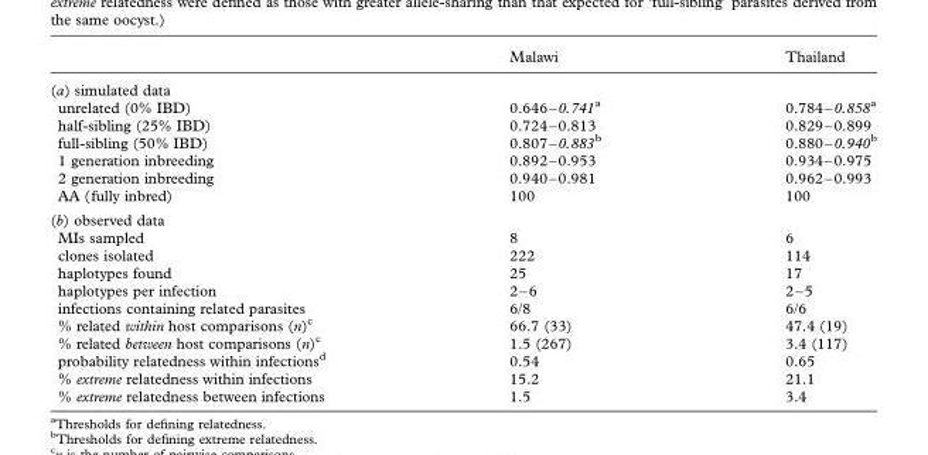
<table><thead><tr><td></td><td>Malawi</td><td>Thailand</td></tr></thead><tbody><tr><td colspan="3">(a) simulated data</td></tr><tr><td>unrelated (0% IBD)</td><td>0.646–0.741<sup>a</sup></td><td>0.784–0.858<sup>a</sup></td></tr><tr><td>half-sibling (25% IBD)</td><td>0.724–0.813</td><td>0.829–0.899</td></tr><tr><td>full-sibling (50% IBD)</td><td>0.807–0.883<sup>b</sup></td><td>0.880–0.940<sup>b</sup></td></tr><tr><td>1 generation inbreeding</td><td>0.892–0.953</td><td>0.934–0.975</td></tr><tr><td>2 generation inbreeding</td><td>0.940–0.981</td><td>0.962–0.993</td></tr><tr><td>AA (fully inbred)</td><td>100</td><td>100</td></tr><tr><td colspan="3">(b) observed data</td></tr><tr><td>MIs sampled</td><td>8</td><td>6</td></tr><tr><td>clones isolated</td><td>222</td><td>114</td></tr><tr><td>haplotypes found</td><td>25</td><td>17</td></tr><tr><td>haplotypes per infection</td><td>2–6</td><td>2–5</td></tr><tr><td>infections containing related parasites</td><td>6/8</td><td>6/6</td></tr><tr><td>% related within host comparisons (n)<sup>c</sup></td><td>66.7 (33)</td><td>47.4 (19)</td></tr><tr><td>% related between host comparisons (n)<sup>c</sup></td><td>1.5 (267)</td><td>3.4 (117)</td></tr><tr><td>probability relatedness within infections<sup>d</sup></td><td>0.54</td><td>0.65</td></tr><tr><td>% extreme relatedness within infections</td><td>15.2</td><td>21.1</td></tr><tr><td>% extreme relatedness between infections</td><td>1.5</td><td>3.4</td></tr></tbody></table>